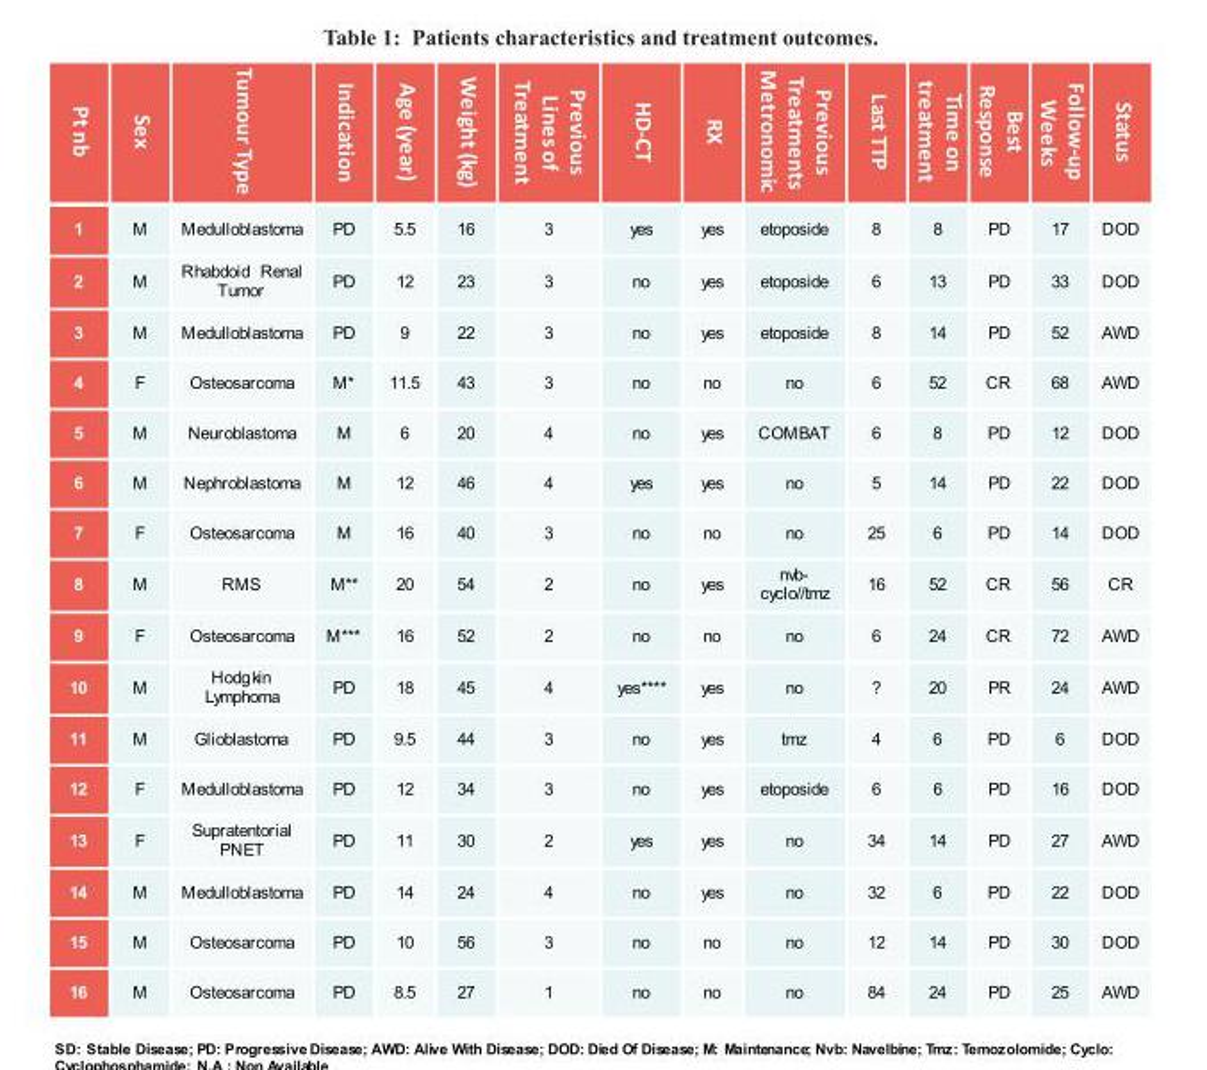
<table><thead><tr><td>Pt nb</td><td>Sex</td><td>Tumour Type</td><td>Indication</td><td>Age (year)</td><td>Weight (kg)</td><td>Previous Lines of Treatment</td><td>HD-CT</td><td>RX</td><td>Previous Treatments Metronomic</td><td>Last TTP</td><td>Time on treatment</td><td>Best Response</td><td>Follow-up Weeks</td><td>Status</td></tr></thead><tbody><tr><td>1</td><td>M</td><td>Medulloblastoma</td><td>PD</td><td>5.5</td><td>16</td><td>3</td><td>yes</td><td>yes</td><td>etoposide</td><td>8</td><td>8</td><td>PD</td><td>17</td><td>DOD</td></tr><tr><td>2</td><td>M</td><td>Rhabdoid Renal Tumor</td><td>PD</td><td>12</td><td>23</td><td>3</td><td>no</td><td>yes</td><td>etoposide</td><td>6</td><td>13</td><td>PD</td><td>33</td><td>DOD</td></tr><tr><td>3</td><td>M</td><td>Medulloblastoma</td><td>PD</td><td>9</td><td>22</td><td>3</td><td>no</td><td>yes</td><td>etoposide</td><td>8</td><td>14</td><td>PD</td><td>52</td><td>AWD</td></tr><tr><td>4</td><td>F</td><td>Osteosarcoma</td><td>M*</td><td>11.5</td><td>43</td><td>3</td><td>no</td><td>no</td><td>no</td><td>6</td><td>52</td><td>CR</td><td>68</td><td>AWD</td></tr><tr><td>5</td><td>M</td><td>Neuroblastoma</td><td>M</td><td>6</td><td>20</td><td>4</td><td>no</td><td>yes</td><td>COMBAT</td><td>6</td><td>8</td><td>PD</td><td>12</td><td>DOD</td></tr><tr><td>6</td><td>M</td><td>Nephroblastoma</td><td>M</td><td>12</td><td>46</td><td>4</td><td>yes</td><td>yes</td><td>no</td><td>5</td><td>14</td><td>PD</td><td>22</td><td>DOD</td></tr><tr><td>7</td><td>F</td><td>Osteosarcoma</td><td>M</td><td>16</td><td>40</td><td>3</td><td>no</td><td>no</td><td>no</td><td>25</td><td>6</td><td>PD</td><td>14</td><td>DOD</td></tr><tr><td>8</td><td>M</td><td>RMS</td><td>M**</td><td>20</td><td>54</td><td>2</td><td>no</td><td>yes</td><td>nvb- cyclo//tmz</td><td>16</td><td>52</td><td>CR</td><td>56</td><td>CR</td></tr><tr><td>9</td><td>F</td><td>Osteosarcoma</td><td>M***</td><td>16</td><td>52</td><td>2</td><td>no</td><td>no</td><td>no</td><td>6</td><td>24</td><td>CR</td><td>72</td><td>AWD</td></tr><tr><td>10</td><td>M</td><td>Hodgkin Lymphoma</td><td>PD</td><td>18</td><td>45</td><td>4</td><td>yes****</td><td>yes</td><td>no</td><td>?</td><td>20</td><td>PR</td><td>24</td><td>AWD</td></tr><tr><td>11</td><td>M</td><td>Glioblastoma</td><td>PD</td><td>9.5</td><td>44</td><td>3</td><td>no</td><td>yes</td><td>tmz</td><td>4</td><td>6</td><td>PD</td><td>6</td><td>DOD</td></tr><tr><td>12</td><td>F</td><td>Medulloblastoma</td><td>PD</td><td>12</td><td>34</td><td>3</td><td>no</td><td>yes</td><td>etoposide</td><td>6</td><td>6</td><td>PD</td><td>16</td><td>DOD</td></tr><tr><td>13</td><td>F</td><td>Supratentorial PNET</td><td>PD</td><td>11</td><td>30</td><td>2</td><td>yes</td><td>yes</td><td>no</td><td>34</td><td>14</td><td>PD</td><td>27</td><td>AWD</td></tr><tr><td>14</td><td>M</td><td>Medulloblastoma</td><td>PD</td><td>14</td><td>24</td><td>4</td><td>no</td><td>yes</td><td>no</td><td>32</td><td>6</td><td>PD</td><td>22</td><td>DOD</td></tr><tr><td>15</td><td>M</td><td>Osteosarcoma</td><td>PD</td><td>10</td><td>56</td><td>3</td><td>no</td><td>no</td><td>no</td><td>12</td><td>14</td><td>PD</td><td>30</td><td>DOD</td></tr><tr><td>16</td><td>M</td><td>Osteosarcoma</td><td>PD</td><td>8.5</td><td>27</td><td>1</td><td>no</td><td>no</td><td>no</td><td>84</td><td>24</td><td>PD</td><td>25</td><td>AWD</td></tr></tbody></table>